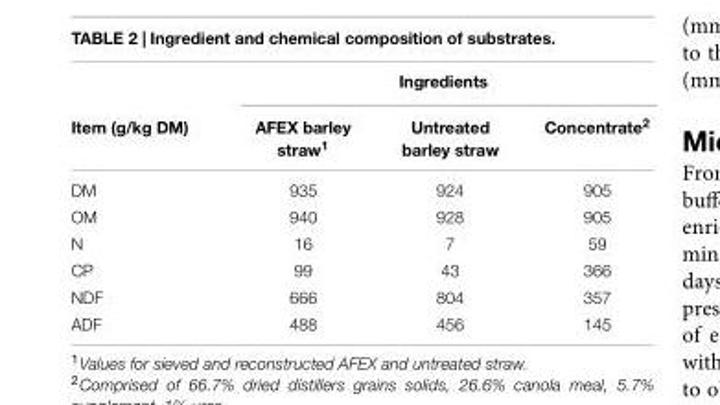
<table><thead><tr><td rowspan="2">Item (g/kg DM)</td><td colspan="3">Ingredients</td></tr><tr><td>AFEX barley straw<sup>1</sup></td><td>Untreated barley straw</td><td>Concentrate<sup>2</sup></td></tr></thead><tbody><tr><td>DM</td><td>935</td><td>924</td><td>905</td></tr><tr><td>OM</td><td>940</td><td>928</td><td>905</td></tr><tr><td>N</td><td>16</td><td>7</td><td>59</td></tr><tr><td>CP</td><td>99</td><td>43</td><td>366</td></tr><tr><td>NDF</td><td>666</td><td>804</td><td>357</td></tr><tr><td>ADF</td><td>488</td><td>456</td><td>145</td></tr></tbody></table>